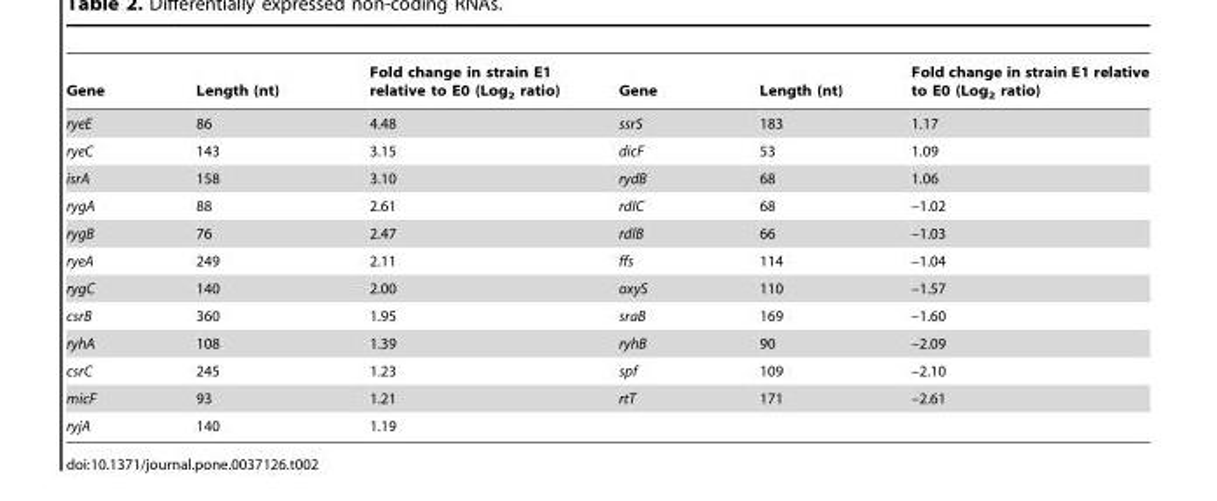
<table><thead><tr><td>Gene</td><td>Length (nt)</td><td>Fold change in strain E1 relative to E0 (Log<sub>2</sub> ratio)</td><td>Gene</td><td>Length (nt)</td><td>Fold change in strain E1 relative to E0 (Log<sub>2</sub> ratio)</td></tr></thead><tbody><tr><td>ryeE</td><td>86</td><td>4.48</td><td>ssrS</td><td>183</td><td>1.17</td></tr><tr><td>ryeC</td><td>143</td><td>3.15</td><td>dicF</td><td>53</td><td>1.09</td></tr><tr><td>isrA</td><td>158</td><td>3.10</td><td>rydB</td><td>68</td><td>1.06</td></tr><tr><td>rygA</td><td>88</td><td>2.61</td><td>rdlC</td><td>68</td><td>–1.02</td></tr><tr><td>rygB</td><td>76</td><td>2.47</td><td>rdlB</td><td>66</td><td>–1.03</td></tr><tr><td>ryeA</td><td>249</td><td>2.11</td><td>ffs</td><td>114</td><td>–1.04</td></tr><tr><td>rygC</td><td>140</td><td>2.00</td><td>oxyS</td><td>110</td><td>–1.57</td></tr><tr><td>csrB</td><td>360</td><td>1.95</td><td>sraB</td><td>169</td><td>–1.60</td></tr><tr><td>ryhA</td><td>108</td><td>1.39</td><td>ryhB</td><td>90</td><td>–2.09</td></tr><tr><td>csrC</td><td>245</td><td>1.23</td><td>spf</td><td>109</td><td>–2.10</td></tr><tr><td>micF</td><td>93</td><td>1.21</td><td>rtT</td><td>171</td><td>–2.61</td></tr><tr><td>ryjA</td><td>140</td><td>1.19</td><td></td><td></td><td></td></tr></tbody></table>